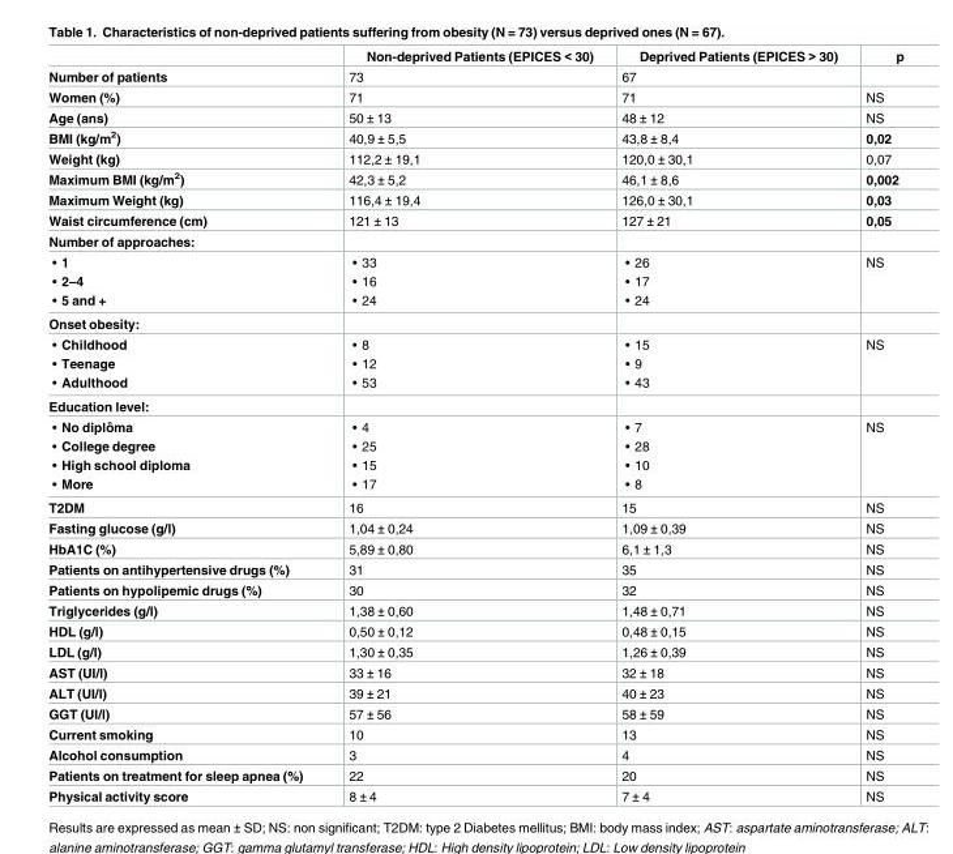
<table><thead><tr><td></td><td>Non-deprived Patients (EPICES &lt; 30)</td><td>Deprived Patients (EPICES &gt; 30)</td><td>p</td></tr></thead><tbody><tr><td>Number of patients</td><td>73</td><td>67</td><td></td></tr><tr><td>Women (%)</td><td>71</td><td>71</td><td>NS</td></tr><tr><td>Age (ans)</td><td>50 ± 13</td><td>48 ± 12</td><td>NS</td></tr><tr><td>BMI (kg/m<sup>2</sup>)</td><td>40,9 ± 5,5</td><td>43,8 ± 8,4</td><td>0,02</td></tr><tr><td>Weight (kg)</td><td>112,2 ± 19,1</td><td>120,0 ± 30,1</td><td>0,07</td></tr><tr><td>Maximum BMI (kg/m<sup>2</sup>)</td><td>42,3 ± 5,2</td><td>46,1 ± 8,6</td><td>0,002</td></tr><tr><td>Maximum Weight (kg)</td><td>116,4 ± 19,4</td><td>126,0 ± 30,1</td><td>0,03</td></tr><tr><td>Waist circumference (cm)</td><td>121 ± 13</td><td>127 ± 21</td><td>0,05</td></tr><tr><td colspan="4">Number of approaches:</td></tr><tr><td>• 1 • 2–4 • 5 and +</td><td>• 33 • 16 • 24</td><td>• 26 • 17 • 24</td><td>NS</td></tr><tr><td colspan="4">Onset obesity:</td></tr><tr><td>• Childhood • Teenage • Adulthood</td><td>• 8 • 12 • 53</td><td>• 15 • 9 • 43</td><td>NS</td></tr><tr><td colspan="4">Education level:</td></tr><tr><td>• No diploˆma • College degree • High school diploma • More</td><td>• 4 • 25 • 15 • 17</td><td>• 7 • 28 • 10 • 8</td><td>NS</td></tr><tr><td>T2DM</td><td>16</td><td>15</td><td>NS</td></tr><tr><td>Fasting glucose (g/l)</td><td>1,04 ± 0,24</td><td>1,09 ± 0,39</td><td>NS</td></tr><tr><td>HbA1C (%)</td><td>5,89 ± 0,80</td><td>6,1 ± 1,3</td><td>NS</td></tr><tr><td>Patients on antihypertensive drugs (%)</td><td>31</td><td>35</td><td>NS</td></tr><tr><td>Patients on hypolipemic drugs (%)</td><td>30</td><td>32</td><td>NS</td></tr><tr><td>Triglycerides (g/l)</td><td>1,38 ± 0,60</td><td>1,48 ± 0,71</td><td>NS</td></tr><tr><td>HDL (g/l)</td><td>0,50 ± 0,12</td><td>0,48 ± 0,15</td><td>NS</td></tr><tr><td>LDL (g/l)</td><td>1,30 ± 0,35</td><td>1,26 ± 0,39</td><td>NS</td></tr><tr><td>AST (UI/l)</td><td>33 ± 16</td><td>32 ± 18</td><td>NS</td></tr><tr><td>ALT (UI/l)</td><td>39 ± 21</td><td>40 ± 23</td><td>NS</td></tr><tr><td>GGT (UI/l)</td><td>57 ± 56</td><td>58 ± 59</td><td>NS</td></tr><tr><td>Current smoking</td><td>10</td><td>13</td><td>NS</td></tr><tr><td>Alcohol consumption</td><td>3</td><td>4</td><td>NS</td></tr><tr><td>Patients on treatment for sleep apnea (%)</td><td>22</td><td>20</td><td>NS</td></tr><tr><td>Physical activity score</td><td>8 ± 4</td><td>7 ± 4</td><td>NS</td></tr></tbody></table>